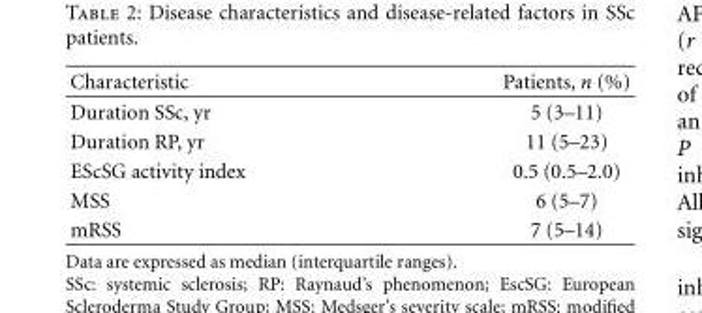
<table><thead><tr><td>Characteristic</td><td>Patients, n (%)</td></tr></thead><tbody><tr><td>Duration SSc, yr</td><td>5 (3–11)</td></tr><tr><td>Duration RP, yr</td><td>11 (5–23)</td></tr><tr><td>EScSG activity index</td><td>0.5 (0.5–2.0)</td></tr><tr><td>MSS</td><td>6 (5–7)</td></tr><tr><td>mRSS</td><td>7 (5–14)</td></tr></tbody></table>